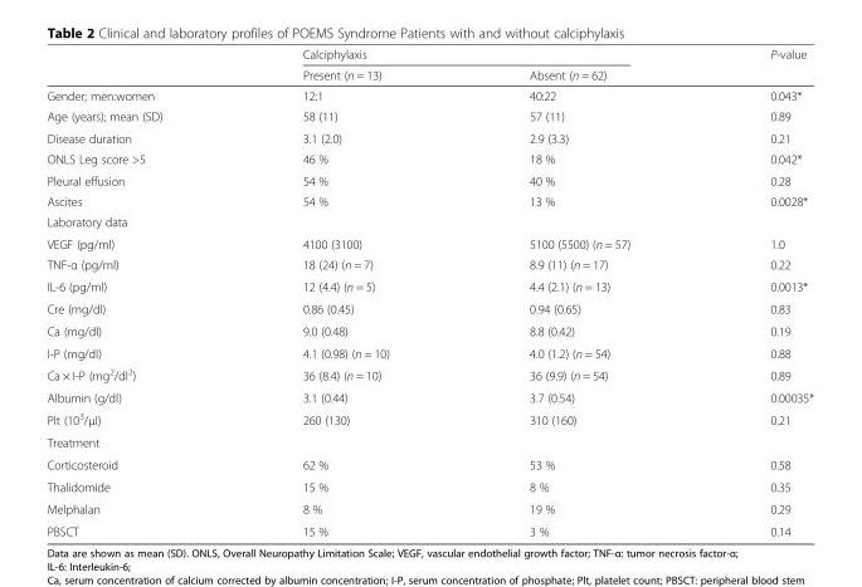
<table><thead><tr><td rowspan="2"></td><td colspan="2">Calciphylaxis</td><td rowspan="2">P-value</td></tr><tr><td>Present (n = 13)</td><td>Absent (n = 62)</td></tr></thead><tbody><tr><td>Gender; men:women</td><td>12:1</td><td>40:22</td><td>0.043*</td></tr><tr><td>Age (years); mean (SD)</td><td>58 (11)</td><td>57 (11)</td><td>0.89</td></tr><tr><td>Disease duration</td><td>3.1 (2.0)</td><td>2.9 (3.3)</td><td>0.21</td></tr><tr><td>ONLS Leg score &gt;5</td><td>46 %</td><td>18 %</td><td>0.042*</td></tr><tr><td>Pleural effusion</td><td>54 %</td><td>40 %</td><td>0.28</td></tr><tr><td>Ascites</td><td>54 %</td><td>13 %</td><td>0.0028*</td></tr><tr><td colspan="4">Laboratory data</td></tr><tr><td>VEGF (pg/ml)</td><td>4100 (3100)</td><td>5100 (5500) (n = 57)</td><td>1.0</td></tr><tr><td>TNF-α (pg/ml)</td><td>18 (24) (n = 7)</td><td>8.9 (11) (n = 17)</td><td>0.22</td></tr><tr><td>IL-6 (pg/ml)</td><td>12 (4.4) (n = 5)</td><td>4.4 (2.1) (n = 13)</td><td>0.0013*</td></tr><tr><td>Cre (mg/dl)</td><td>0.86 (0.45)</td><td>0.94 (0.65)</td><td>0.83</td></tr><tr><td>Ca (mg/dl)</td><td>9.0 (0.48)</td><td>8.8 (0.42)</td><td>0.19</td></tr><tr><td>I-P (mg/dl)</td><td>4.1 (0.98) (n = 10)</td><td>4.0 (1.2) (n = 54)</td><td>0.88</td></tr><tr><td>Ca × I-P (mg<sup>2</sup>/dl<sup>2</sup>)</td><td>36 (8.4) (n = 10)</td><td>36 (9.9) (n = 54)</td><td>0.89</td></tr><tr><td>Albumin (g/dl)</td><td>3.1 (0.44)</td><td>3.7 (0.54)</td><td>0.00035*</td></tr><tr><td>Plt (10<sup>3</sup>/μl)</td><td>260 (130)</td><td>310 (160)</td><td>0.21</td></tr><tr><td colspan="4">Treatment</td></tr><tr><td>Corticosteroid</td><td>62 %</td><td>53 %</td><td>0.58</td></tr><tr><td>Thalidomide</td><td>15 %</td><td>8 %</td><td>0.35</td></tr><tr><td>Melphalan</td><td>8 %</td><td>19 %</td><td>0.29</td></tr><tr><td>PBSCT</td><td>15 %</td><td>3 %</td><td>0.14</td></tr></tbody></table>